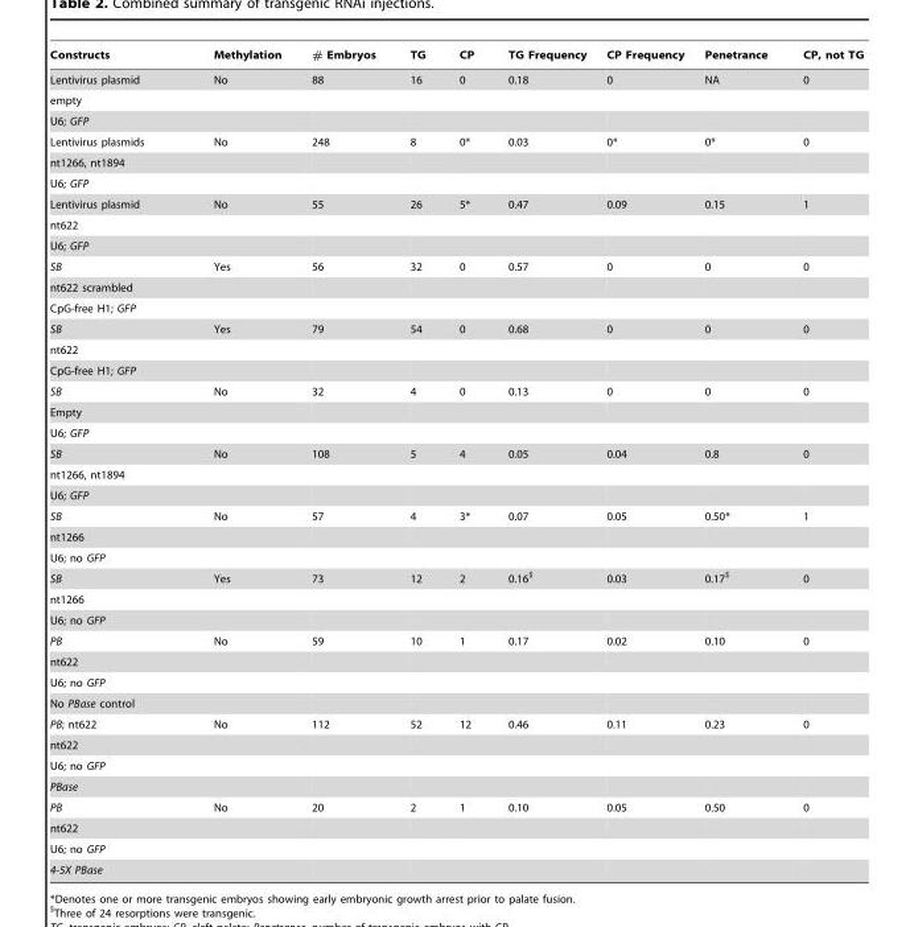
<table><thead><tr><td>Constructs</td><td>Methylation</td><td># Embryos</td><td>TG</td><td>CP</td><td>TG Frequency</td><td>CP Frequency</td><td>Penetrance</td><td>CP, not TG</td></tr></thead><tbody><tr><td>Lentivirus plasmid</td><td>No</td><td>88</td><td>16</td><td>0</td><td>0.18</td><td>0</td><td>NA</td><td>0</td></tr><tr><td colspan="9">empty</td></tr><tr><td colspan="9">U6; GFP</td></tr><tr><td>Lentivirus plasmids</td><td>No</td><td>248</td><td>8</td><td>0*</td><td>0.03</td><td>0*</td><td>0*</td><td>0</td></tr><tr><td colspan="9">nt1266, nt1894</td></tr><tr><td colspan="9">U6; GFP</td></tr><tr><td>Lentivirus plasmid</td><td>No</td><td>55</td><td>26</td><td>5*</td><td>0.47</td><td>0.09</td><td>0.15</td><td>1</td></tr><tr><td colspan="9">nt622</td></tr><tr><td colspan="9">U6; GFP</td></tr><tr><td>SB</td><td>Yes</td><td>56</td><td>32</td><td>0</td><td>0.57</td><td>0</td><td>0</td><td>0</td></tr><tr><td colspan="9">nt622 scrambled</td></tr><tr><td colspan="9">CpG-free H1; GFP</td></tr><tr><td>SB</td><td>Yes</td><td>79</td><td>54</td><td>0</td><td>0.68</td><td>0</td><td>0</td><td>0</td></tr><tr><td colspan="9">nt622</td></tr><tr><td colspan="9">CpG-free H1; GFP</td></tr><tr><td>SB</td><td>No</td><td>32</td><td>4</td><td>0</td><td>0.13</td><td>0</td><td>0</td><td>0</td></tr><tr><td colspan="9">Empty</td></tr><tr><td colspan="9">U6; GFP</td></tr><tr><td>SB</td><td>No</td><td>108</td><td>5</td><td>4</td><td>0.05</td><td>0.04</td><td>0.8</td><td>0</td></tr><tr><td colspan="9">nt1266, nt1894</td></tr><tr><td colspan="9">U6; GFP</td></tr><tr><td>SB</td><td>No</td><td>57</td><td>4</td><td>3*</td><td>0.07</td><td>0.05</td><td>0.50*</td><td>1</td></tr><tr><td colspan="9">nt1266</td></tr><tr><td colspan="9">U6; no GFP</td></tr><tr><td>SB</td><td>Yes</td><td>73</td><td>12</td><td>2</td><td>0.16$</td><td>0.03</td><td>0.17$</td><td>0</td></tr><tr><td colspan="9">nt1266</td></tr><tr><td colspan="9">U6; no GFP</td></tr><tr><td>PB</td><td>No</td><td>59</td><td>10</td><td>1</td><td>0.17</td><td>0.02</td><td>0.10</td><td>0</td></tr><tr><td colspan="9">nt622</td></tr><tr><td colspan="9">U6; no GFP</td></tr><tr><td colspan="9">No PBase control</td></tr><tr><td>PB; nt622</td><td>No</td><td>112</td><td>52</td><td>12</td><td>0.46</td><td>0.11</td><td>0.23</td><td>0</td></tr><tr><td colspan="9">nt622</td></tr><tr><td colspan="9">U6; no GFP</td></tr><tr><td colspan="9">PBase</td></tr><tr><td>PB</td><td>No</td><td>20</td><td>2</td><td>1</td><td>0.10</td><td>0.05</td><td>0.50</td><td>0</td></tr><tr><td colspan="9">nt622</td></tr><tr><td colspan="9">U6; no GFP</td></tr><tr><td>4-5X PBase</td><td></td><td></td><td></td><td></td><td></td><td></td><td></td><td></td></tr></tbody></table>